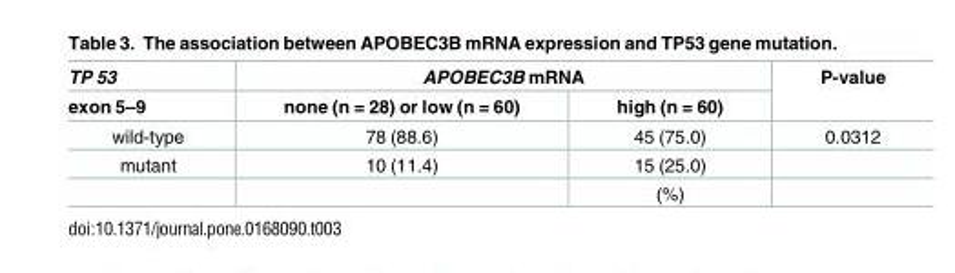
<table><thead><tr><td rowspan="2">TP 53 exon 5–9</td><td colspan="2">APOBEC3B mRNA</td><td rowspan="2">P-value</td></tr><tr><td>none (n = 28) or low (n = 60)</td><td>high (n = 60)</td></tr></thead><tbody><tr><td>wild-type</td><td>78 (88.6)</td><td>45 (75.0)</td><td>0.0312</td></tr><tr><td rowspan="2">mutant</td><td>10 (11.4)</td><td>15 (25.0)</td><td></td></tr><tr><td></td><td>(%)</td><td></td></tr></tbody></table>